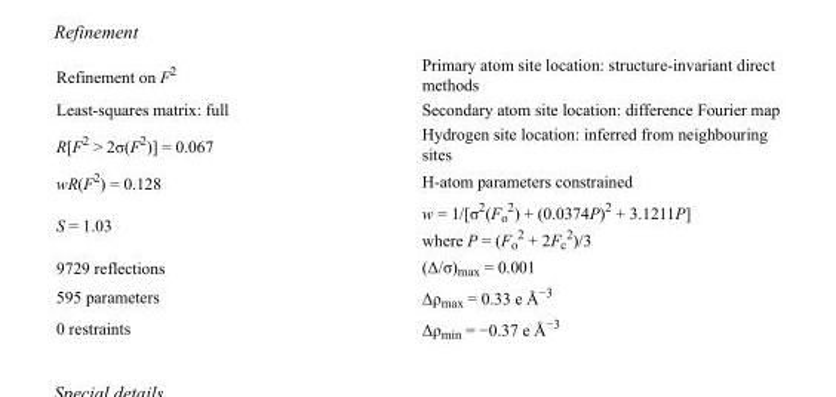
<table><tbody><tr><td>Refinement on F<sup>2</sup></td><td>Primary atom site location: structure-invariant direct methods</td></tr><tr><td>Least-squares matrix: full</td><td>Secondary atom site location: difference Fourier map</td></tr><tr><td>R[F<sup>2</sup> &gt; 2σ(F<sup>2</sup>)] = 0.067</td><td>Hydrogen site location: inferred from neighbouring sites</td></tr><tr><td>wR(F<sup>2</sup>) = 0.128</td><td>H-atom parameters constrained</td></tr><tr><td>S = 1.03</td><td>w = 1/[σ<sup>2</sup>(F<sub>o</sub> <sup>2</sup>) + (0.0374P)<sup>2</sup> + 3.1211P] where P = (F<sub>o</sub> <sup>2</sup> + 2F<sub>c</sub> <sup>2</sup>)/3</td></tr><tr><td>9729 reflections</td><td>(Δ/σ)<sub>max</sub> = 0.001</td></tr><tr><td>595 parameters</td><td>Δρ<sub>max</sub> = 0.33 e Å<sup>−3</sup></td></tr><tr><td>0 restraints</td><td>Δρ<sub>min</sub> = −0.37 e Å<sup>−3</sup></td></tr></tbody></table>